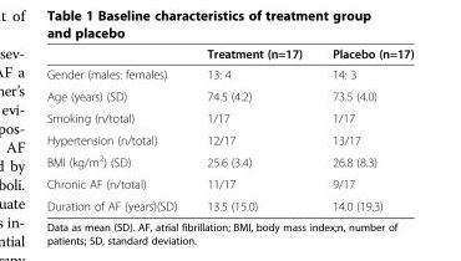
<table><thead><tr><td></td><td>Treatment (n=17)</td><td>Placebo (n=17)</td></tr></thead><tbody><tr><td>Gender (males: females)</td><td>13: 4</td><td>14: 3</td></tr><tr><td>Age (years) (SD)</td><td>74.5 (4.2)</td><td>73.5 (4.0)</td></tr><tr><td>Smoking (n/total)</td><td>1/17</td><td>1/17</td></tr><tr><td>Hypertension (n/total)</td><td>12/17</td><td>13/17</td></tr><tr><td>BMI (kg/m<sup>2</sup>) (SD)</td><td>25.6 (3.4)</td><td>26.8 (8.3)</td></tr><tr><td>Chronic AF (n/total)</td><td>11/17</td><td>9/17</td></tr><tr><td>Duration of AF (years)(SD)</td><td>13.5 (15.0)</td><td>14.0 (19.3)</td></tr></tbody></table>